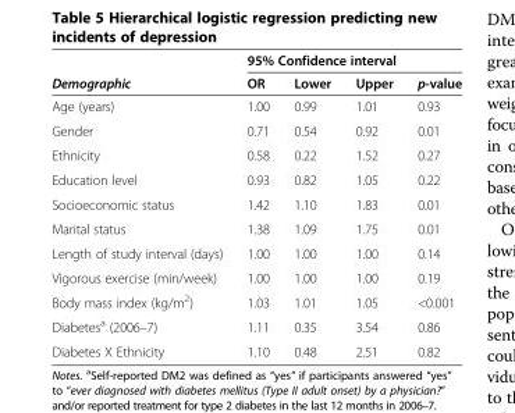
<table><thead><tr><td rowspan="2">Demographic</td><td colspan="4">95% Confidence interval</td></tr><tr><td>OR</td><td>Lower</td><td>Upper</td><td>p-value</td></tr></thead><tbody><tr><td>Age (years)</td><td>1.00</td><td>0.99</td><td>1.01</td><td>0.93</td></tr><tr><td>Gender</td><td>0.71</td><td>0.54</td><td>0.92</td><td>0.01</td></tr><tr><td>Ethnicity</td><td>0.58</td><td>0.22</td><td>1.52</td><td>0.27</td></tr><tr><td>Education level</td><td>0.93</td><td>0.82</td><td>1.05</td><td>0.22</td></tr><tr><td>Socioeconomic status</td><td>1.42</td><td>1.10</td><td>1.83</td><td>0.01</td></tr><tr><td>Marital status</td><td>1.38</td><td>1.09</td><td>1.75</td><td>0.01</td></tr><tr><td>Length of study interval (days)</td><td>1.00</td><td>1.00</td><td>1.00</td><td>0.14</td></tr><tr><td>Vigorous exercise (min/week)</td><td>1.00</td><td>1.00</td><td>1.00</td><td>0.19</td></tr><tr><td>Body mass index (kg/m<sup>2</sup>)</td><td>1.03</td><td>1.01</td><td>1.05</td><td>&lt;0.001</td></tr><tr><td>Diabetes<sup>a</sup> (2006–7)</td><td>1.11</td><td>0.35</td><td>3.54</td><td>0.86</td></tr><tr><td>Diabetes X Ethnicity</td><td>1.10</td><td>0.48</td><td>2.51</td><td>0.82</td></tr></tbody></table>